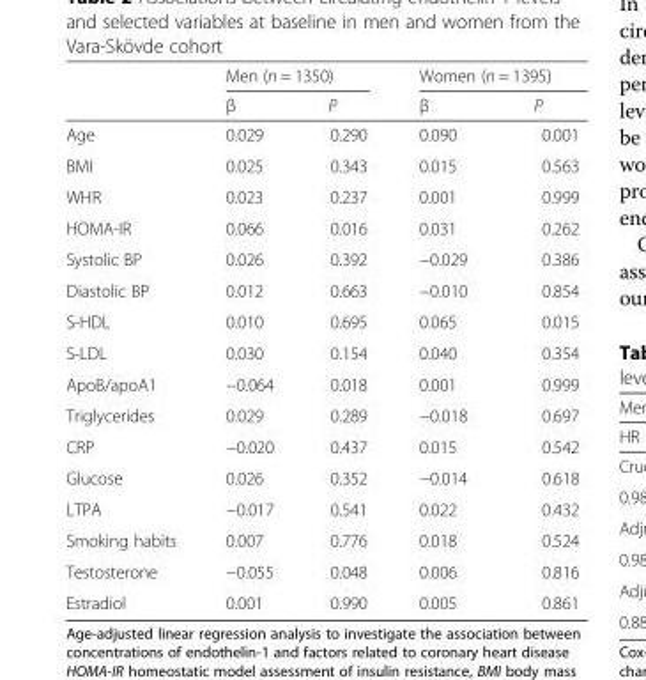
<table><thead><tr><td rowspan="2"></td><td colspan="2">Men (n = 1350)</td><td colspan="2">Women (n = 1395)</td></tr><tr><td>β</td><td>P</td><td>β</td><td>P</td></tr></thead><tbody><tr><td>Age</td><td>0.029</td><td>0.290</td><td>0.090</td><td>0.001</td></tr><tr><td>BMI</td><td>0.025</td><td>0.343</td><td>0.015</td><td>0.563</td></tr><tr><td>WHR</td><td>0.023</td><td>0.237</td><td>0.001</td><td>0.999</td></tr><tr><td>HOMA-IR</td><td>0.066</td><td>0.016</td><td>0.031</td><td>0.262</td></tr><tr><td>Systolic BP</td><td>0.026</td><td>0.392</td><td>−0.029</td><td>0.386</td></tr><tr><td>Diastolic BP</td><td>0.012</td><td>0.663</td><td>−0.010</td><td>0.854</td></tr><tr><td>S-HDL</td><td>0.010</td><td>0.695</td><td>0.065</td><td>0.015</td></tr><tr><td>S-LDL</td><td>0.030</td><td>0.154</td><td>0.040</td><td>0.354</td></tr><tr><td>ApoB/apoA1</td><td>−0.064</td><td>0.018</td><td>0.001</td><td>0.999</td></tr><tr><td>Triglycerides</td><td>0.029</td><td>0.289</td><td>−0.018</td><td>0.697</td></tr><tr><td>CRP</td><td>−0.020</td><td>0.437</td><td>0.015</td><td>0.542</td></tr><tr><td>Glucose</td><td>0.026</td><td>0.352</td><td>−0.014</td><td>0.618</td></tr><tr><td>LTPA</td><td>−0.017</td><td>0.541</td><td>0.022</td><td>0.432</td></tr><tr><td>Smoking habits</td><td>0.007</td><td>0.776</td><td>0.018</td><td>0.524</td></tr><tr><td>Testosterone</td><td>−0.055</td><td>0.048</td><td>0.006</td><td>0.816</td></tr><tr><td>Estradiol</td><td>0.001</td><td>0.990</td><td>0.005</td><td>0.861</td></tr></tbody></table>